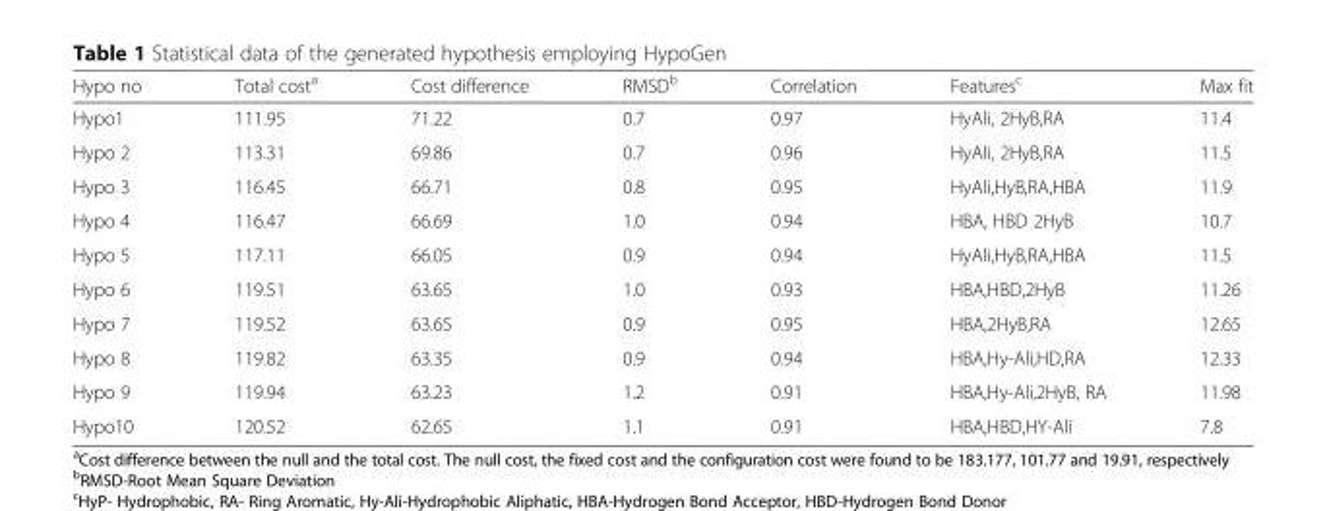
<table><thead><tr><td>Hypo no</td><td>Total cost<sup>a</sup></td><td>Cost difference</td><td>RMSD<sup>b</sup></td><td>Correlation</td><td>Features<sup>c</sup></td><td>Max fit</td></tr></thead><tbody><tr><td>Hypo1</td><td>111.95</td><td>71.22</td><td>0.7</td><td>0.97</td><td>HyAli, 2HyB,RA</td><td>11.4</td></tr><tr><td>Hypo 2</td><td>113.31</td><td>69.86</td><td>0.7</td><td>0.96</td><td>HyAli, 2HyB,RA</td><td>11.5</td></tr><tr><td>Hypo 3</td><td>116.45</td><td>66.71</td><td>0.8</td><td>0.95</td><td>HyAli,HyB,RA,HBA</td><td>11.9</td></tr><tr><td>Hypo 4</td><td>116.47</td><td>66.69</td><td>1.0</td><td>0.94</td><td>HBA, HBD 2HyB</td><td>10.7</td></tr><tr><td>Hypo 5</td><td>117.11</td><td>66.05</td><td>0.9</td><td>0.94</td><td>HyAli,HyB,RA,HBA</td><td>11.5</td></tr><tr><td>Hypo 6</td><td>119.51</td><td>63.65</td><td>1.0</td><td>0.93</td><td>HBA,HBD,2HyB</td><td>11.26</td></tr><tr><td>Hypo 7</td><td>119.52</td><td>63.65</td><td>0.9</td><td>0.95</td><td>HBA,2HyB,RA</td><td>12.65</td></tr><tr><td>Hypo 8</td><td>119.82</td><td>63.35</td><td>0.9</td><td>0.94</td><td>HBA,Hy-Ali,HD,RA</td><td>12.33</td></tr><tr><td>Hypo 9</td><td>119.94</td><td>63.23</td><td>1.2</td><td>0.91</td><td>HBA,Hy-Ali,2HyB, RA</td><td>11.98</td></tr><tr><td>Hypo10</td><td>120.52</td><td>62.65</td><td>1.1</td><td>0.91</td><td>HBA,HBD,HY-Ali</td><td>7.8</td></tr></tbody></table>